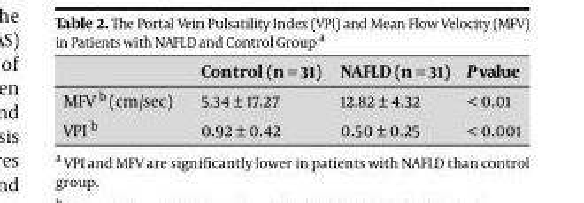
<table><thead><tr><td></td><td>Control (n = 31)</td><td>NAFLD (n = 31)</td><td>P value</td></tr></thead><tbody><tr><td>MFV b (cm/sec)</td><td>5.34 ± 17.27</td><td>12.82 ± 4.32</td><td>&lt; 0.01</td></tr><tr><td>VPI b</td><td>0.92 ± 0.42</td><td>0.50 ± 0.25</td><td>&lt; 0.001</td></tr></tbody></table>